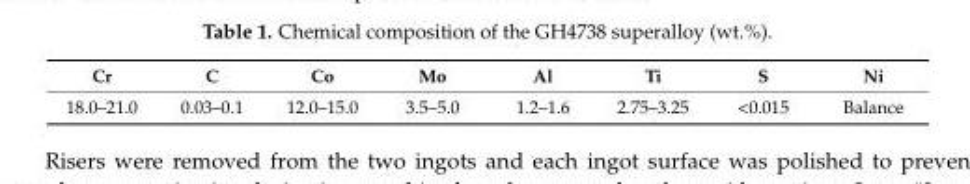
<table><thead><tr><td>Cr</td><td>C</td><td>Co</td><td>Mo</td><td>Al</td><td>Ti</td><td>S</td><td>Ni</td></tr></thead><tbody><tr><td>18.0–21.0</td><td>0.03–0.1</td><td>12.0–15.0</td><td>3.5–5.0</td><td>1.2–1.6</td><td>2.75–3.25</td><td>&lt;0.015</td><td>Balance</td></tr></tbody></table>